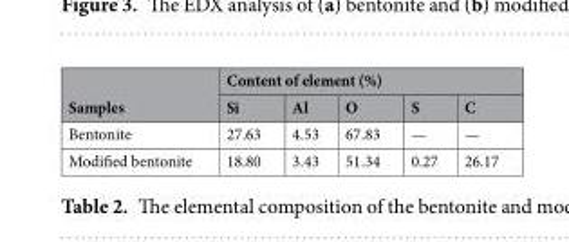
<table><thead><tr><td rowspan="2">Samples</td><td colspan="5">Content of element (%)</td></tr><tr><td>Si</td><td>Al</td><td>O</td><td>S</td><td>C</td></tr></thead><tbody><tr><td>Bentonite</td><td>27.63</td><td>4.53</td><td>67.83</td><td>—</td><td>—</td></tr><tr><td>Modified bentonite</td><td>18.80</td><td>3.43</td><td>51.34</td><td>0.27</td><td>26.17</td></tr></tbody></table>